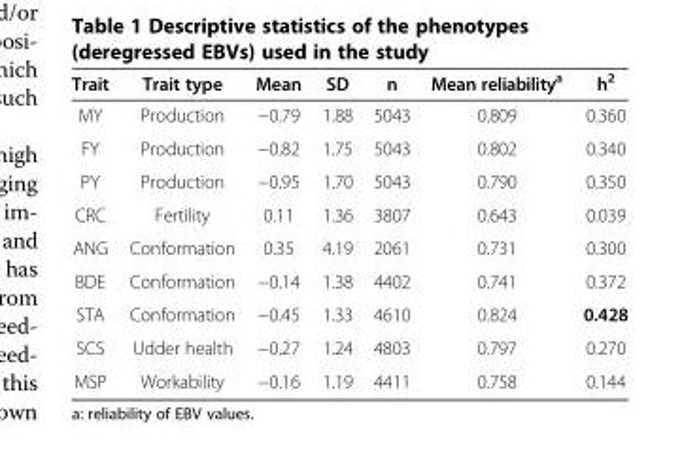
<table><thead><tr><td>Trait</td><td>Trait type</td><td>Mean</td><td>SD</td><td>n</td><td>Mean reliability<sup>a</sup></td><td>h<sup>2</sup></td></tr></thead><tbody><tr><td>MY</td><td>Production</td><td>−0.79</td><td>1.88</td><td>5043</td><td>0.809</td><td>0.360</td></tr><tr><td>FY</td><td>Production</td><td>−0.82</td><td>1.75</td><td>5043</td><td>0.802</td><td>0.340</td></tr><tr><td>PY</td><td>Production</td><td>−0.95</td><td>1.70</td><td>5043</td><td>0.790</td><td>0.350</td></tr><tr><td>CRC</td><td>Fertility</td><td>0.11</td><td>1.36</td><td>3807</td><td>0.643</td><td>0.039</td></tr><tr><td>ANG</td><td>Conformation</td><td>0.35</td><td>4.19</td><td>2061</td><td>0.731</td><td>0.300</td></tr><tr><td>BDE</td><td>Conformation</td><td>−0.14</td><td>1.38</td><td>4402</td><td>0.741</td><td>0.372</td></tr><tr><td>STA</td><td>Conformation</td><td>−0.45</td><td>1.33</td><td>4610</td><td>0.824</td><td>0.428</td></tr><tr><td>SCS</td><td>Udder health</td><td>−0.27</td><td>1.24</td><td>4803</td><td>0.797</td><td>0.270</td></tr><tr><td>MSP</td><td>Workability</td><td>−0.16</td><td>1.19</td><td>4411</td><td>0.758</td><td>0.144</td></tr></tbody></table>